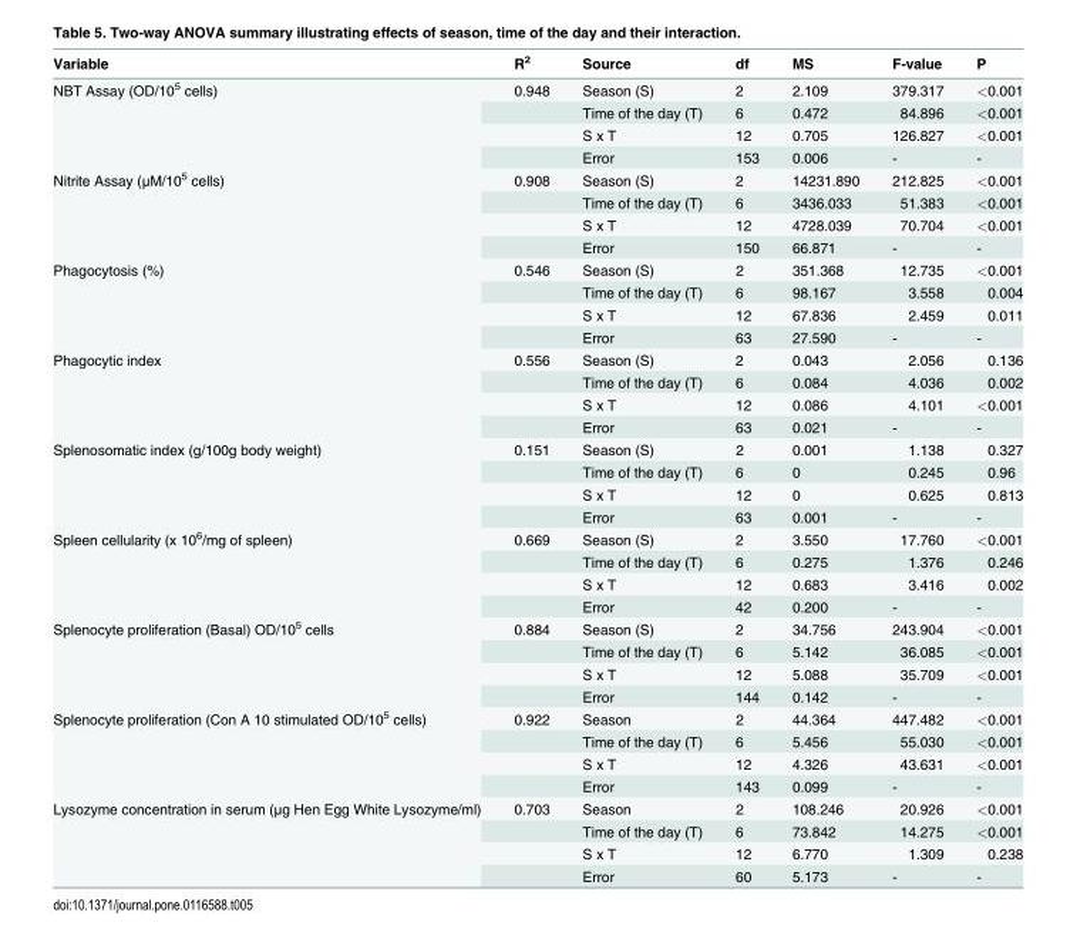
<table><thead><tr><td>Variable</td><td>R<sup>2</sup></td><td>Source</td><td>df</td><td>MS</td><td>F-value</td><td>P</td></tr></thead><tbody><tr><td rowspan="4">NBT Assay (OD/10<sup>5</sup> cells)</td><td>0.948</td><td>Season (S)</td><td>2</td><td>2.109</td><td>379.317</td><td>&lt;0.001</td></tr><tr><td></td><td>Time of the day (T)</td><td>6</td><td>0.472</td><td>84.896</td><td>&lt;0.001</td></tr><tr><td></td><td>S x T</td><td>12</td><td>0.705</td><td>126.827</td><td>&lt;0.001</td></tr><tr><td></td><td>Error</td><td>153</td><td>0.006</td><td>-</td><td>-</td></tr><tr><td rowspan="4">Nitrite Assay (μM/10<sup>5</sup> cells)</td><td>0.908</td><td>Season (S)</td><td>2</td><td>14231.890</td><td>212.825</td><td>&lt;0.001</td></tr><tr><td></td><td>Time of the day (T)</td><td>6</td><td>3436.033</td><td>51.383</td><td>&lt;0.001</td></tr><tr><td></td><td>S x T</td><td>12</td><td>4728.039</td><td>70.704</td><td>&lt;0.001</td></tr><tr><td></td><td>Error</td><td>150</td><td>66.871</td><td>-</td><td>-</td></tr><tr><td rowspan="4">Phagocytosis (%)</td><td>0.546</td><td>Season (S)</td><td>2</td><td>351.368</td><td>12.735</td><td>&lt;0.001</td></tr><tr><td></td><td>Time of the day (T)</td><td>6</td><td>98.167</td><td>3.558</td><td>0.004</td></tr><tr><td></td><td>S x T</td><td>12</td><td>67.836</td><td>2.459</td><td>0.011</td></tr><tr><td></td><td>Error</td><td>63</td><td>27.590</td><td>-</td><td>-</td></tr><tr><td rowspan="4">Phagocytic index</td><td>0.556</td><td>Season (S)</td><td>2</td><td>0.043</td><td>2.056</td><td>0.136</td></tr><tr><td></td><td>Time of the day (T)</td><td>6</td><td>0.084</td><td>4.036</td><td>0.002</td></tr><tr><td></td><td>S x T</td><td>12</td><td>0.086</td><td>4.101</td><td>&lt;0.001</td></tr><tr><td></td><td>Error</td><td>63</td><td>0.021</td><td>-</td><td>-</td></tr><tr><td rowspan="4">Splenosomatic index (g/100g body weight)</td><td>0.151</td><td>Season (S)</td><td>2</td><td>0.001</td><td>1.138</td><td>0.327</td></tr><tr><td></td><td>Time of the day (T)</td><td>6</td><td>0</td><td>0.245</td><td>0.96</td></tr><tr><td></td><td>S x T</td><td>12</td><td>0</td><td>0.625</td><td>0.813</td></tr><tr><td></td><td>Error</td><td>63</td><td>0.001</td><td>-</td><td>-</td></tr><tr><td rowspan="4">Spleen cellularity (x 10<sup>6</sup>/mg of spleen)</td><td>0.669</td><td>Season (S)</td><td>2</td><td>3.550</td><td>17.760</td><td>&lt;0.001</td></tr><tr><td></td><td>Time of the day (T)</td><td>6</td><td>0.275</td><td>1.376</td><td>0.246</td></tr><tr><td></td><td>S x T</td><td>12</td><td>0.683</td><td>3.416</td><td>0.002</td></tr><tr><td></td><td>Error</td><td>42</td><td>0.200</td><td>-</td><td>-</td></tr><tr><td rowspan="4">Splenocyte proliferation (Basal) OD/10<sup>5</sup> cells</td><td>0.884</td><td>Season (S)</td><td>2</td><td>34.756</td><td>243.904</td><td>&lt;0.001</td></tr><tr><td></td><td>Time of the day (T)</td><td>6</td><td>5.142</td><td>36.085</td><td>&lt;0.001</td></tr><tr><td></td><td>S x T</td><td>12</td><td>5.088</td><td>35.709</td><td>&lt;0.001</td></tr><tr><td></td><td>Error</td><td>144</td><td>0.142</td><td>-</td><td>-</td></tr><tr><td rowspan="4">Splenocyte proliferation (Con A 10 stimulated OD/10<sup>5</sup> cells)</td><td>0.922</td><td>Season</td><td>2</td><td>44.364</td><td>447.482</td><td>&lt;0.001</td></tr><tr><td></td><td>Time of the day (T)</td><td>6</td><td>5.456</td><td>55.030</td><td>&lt;0.001</td></tr><tr><td></td><td>S x T</td><td>12</td><td>4.326</td><td>43.631</td><td>&lt;0.001</td></tr><tr><td></td><td>Error</td><td>143</td><td>0.099</td><td>-</td><td>-</td></tr><tr><td rowspan="4">Lysozyme concentration in serum (μg Hen Egg White Lysozyme/ml)</td><td>0.703</td><td>Season</td><td>2</td><td>108.246</td><td>20.926</td><td>&lt;0.001</td></tr><tr><td></td><td>Time of the day (T)</td><td>6</td><td>73.842</td><td>14.275</td><td>&lt;0.001</td></tr><tr><td></td><td>S x T</td><td>12</td><td>6.770</td><td>1.309</td><td>0.238</td></tr><tr><td></td><td>Error</td><td>60</td><td>5.173</td><td>-</td><td>-</td></tr></tbody></table>